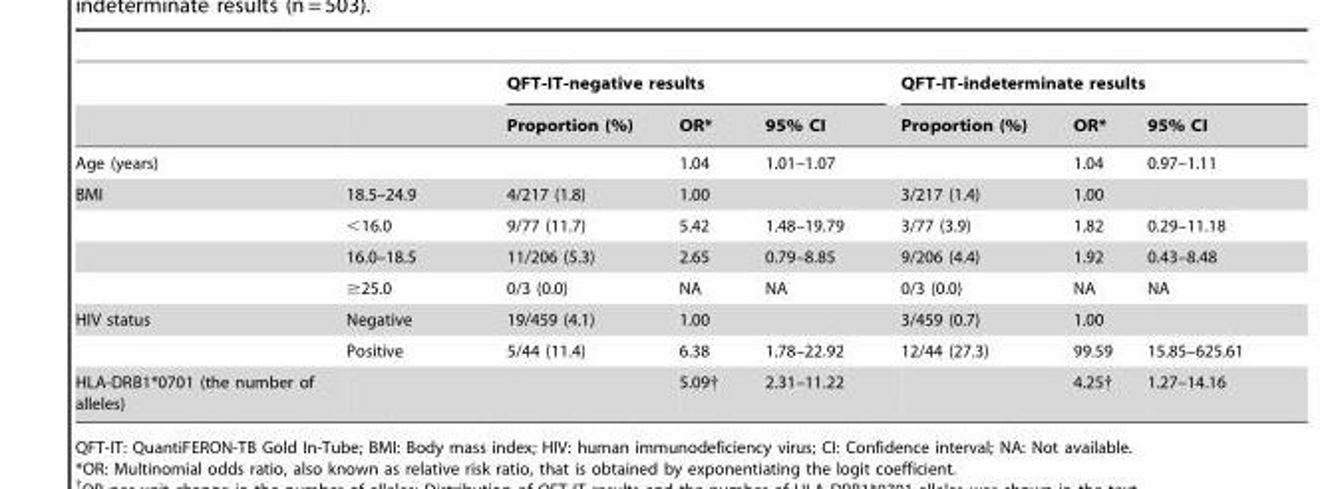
<table><thead><tr><td rowspan="2"></td><td rowspan="2"></td><td colspan="3">QFT-IT-negative results</td><td colspan="3">QFT-IT-indeterminate results</td></tr><tr><td>Proportion (%)</td><td>OR*</td><td>95% CI</td><td>Proportion (%)</td><td>OR*</td><td>95% CI</td></tr></thead><tbody><tr><td>Age (years)</td><td></td><td></td><td>1.04</td><td>1.01–1.07</td><td></td><td>1.04</td><td>0.97–1.11</td></tr><tr><td rowspan="4">BMI</td><td>18.5–24.9</td><td>4/217 (1.8)</td><td>1.00</td><td></td><td>3/217 (1.4)</td><td>1.00</td><td></td></tr><tr><td>&lt;16.0</td><td>9/77 (11.7)</td><td>5.42</td><td>1.48–19.79</td><td>3/77 (3.9)</td><td>1.82</td><td>0.29–11.18</td></tr><tr><td>16.0–18.5</td><td>11/206 (5.3)</td><td>2.65</td><td>0.79–8.85</td><td>9/206 (4.4)</td><td>1.92</td><td>0.43–8.48</td></tr><tr><td>≥25.0</td><td>0/3 (0.0)</td><td>NA</td><td>NA</td><td>0/3 (0.0)</td><td>NA</td><td>NA</td></tr><tr><td rowspan="2">HIV status</td><td>Negative</td><td>19/459 (4.1)</td><td>1.00</td><td></td><td>3/459 (0.7)</td><td>1.00</td><td></td></tr><tr><td>Positive</td><td>5/44 (11.4)</td><td>6.38</td><td>1.78–22.92</td><td>12/44 (27.3)</td><td>99.59</td><td>15.85–625.61</td></tr><tr><td>HLA-DRB1*0701 (the number of alleles)</td><td></td><td></td><td>5.09†</td><td>2.31–11.22</td><td></td><td>4.25†</td><td>1.27–14.16</td></tr></tbody></table>